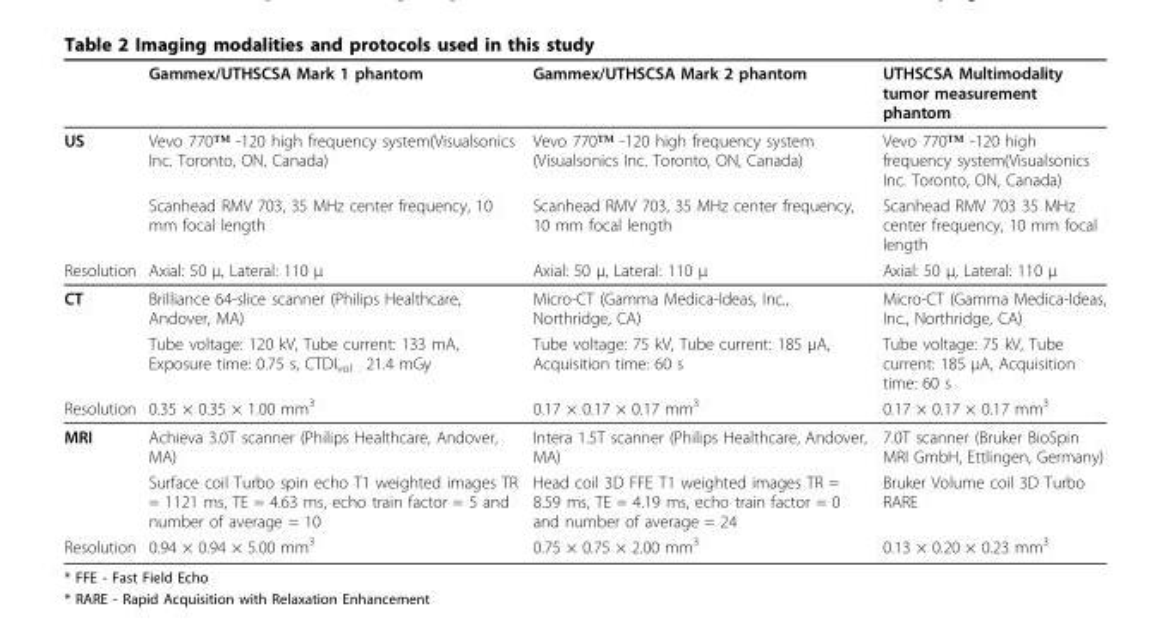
<table><thead><tr><td></td><td>Gammex/UTHSCSA Mark 1 phantom</td><td>Gammex/UTHSCSA Mark 2 phantom</td><td>UTHSCSA Multimodality tumor measurement phantom</td></tr></thead><tbody><tr><td rowspan="2">US</td><td>Vevo 770™ -120 high frequency system(Visualsonics Inc. Toronto, ON, Canada)</td><td>Vevo 770™ -120 high frequency system (Visualsonics Inc. Toronto, ON, Canada)</td><td>Vevo 770™ -120 high frequency system(Visualsonics Inc. Toronto, ON, Canada)</td></tr><tr><td>Scanhead RMV 703, 35 MHz center frequency, 10 mm focal length</td><td>Scanhead RMV 703, 35 MHz center frequency, 10 mm focal length</td><td>Scanhead RMV 703 35 MHz center frequency, 10 mm focal length</td></tr><tr><td>Resolution</td><td>Axial: 50 μ, Lateral: 110 μ</td><td>Axial: 50 μ, Lateral: 110 μ</td><td>Axial: 50 μ, Lateral: 110 μ</td></tr><tr><td rowspan="2">CT</td><td>Brilliance 64-slice scanner (Philips Healthcare, Andover, MA)</td><td>Micro-CT (Gamma Medica-Ideas, Inc., Northridge, CA)</td><td>Micro-CT (Gamma Medica-Ideas, Inc., Northridge, CA)</td></tr><tr><td>Tube voltage: 120 kV, Tube current: 133 mA, Exposure time: 0.75 s, CTDI<sub>vol :</sub> 21.4 mGy</td><td>Tube voltage: 75 kV, Tube current: 185 μA, Acquisition time: 60 s</td><td>Tube voltage: 75 kV, Tube current: 185 μA, Acquisition time: 60 s</td></tr><tr><td>Resolution</td><td>0.35 × 0.35 × 1.00 mm<sup>3</sup></td><td>0.17 × 0.17 × 0.17 mm<sup>3</sup></td><td>0.17 × 0.17 × 0.17 mm<sup>3</sup></td></tr><tr><td rowspan="2">MRI</td><td>Achieva 3.0T scanner (Philips Healthcare, Andover, MA)</td><td>Intera 1.5T scanner (Philips Healthcare, Andover, MA)</td><td>7.0T scanner (Bruker BioSpin MRI GmbH, Ettlingen, Germany)</td></tr><tr><td>Surface coil Turbo spin echo T1 weighted images TR = 1121 ms, TE = 4.63 ms, echo train factor = 5 and number of average = 10</td><td>Head coil 3D FFE T1 weighted images TR = 8.59 ms, TE = 4.19 ms, echo train factor = 0 and number of average = 24</td><td>Bruker Volume coil 3D Turbo RARE</td></tr><tr><td>Resolution</td><td>0.94 × 0.94 × 5.00 mm<sup>3</sup></td><td>0.75 × 0.75 × 2.00 mm<sup>3</sup></td><td>0.13 × 0.20 × 0.23 mm<sup>3</sup></td></tr></tbody></table>